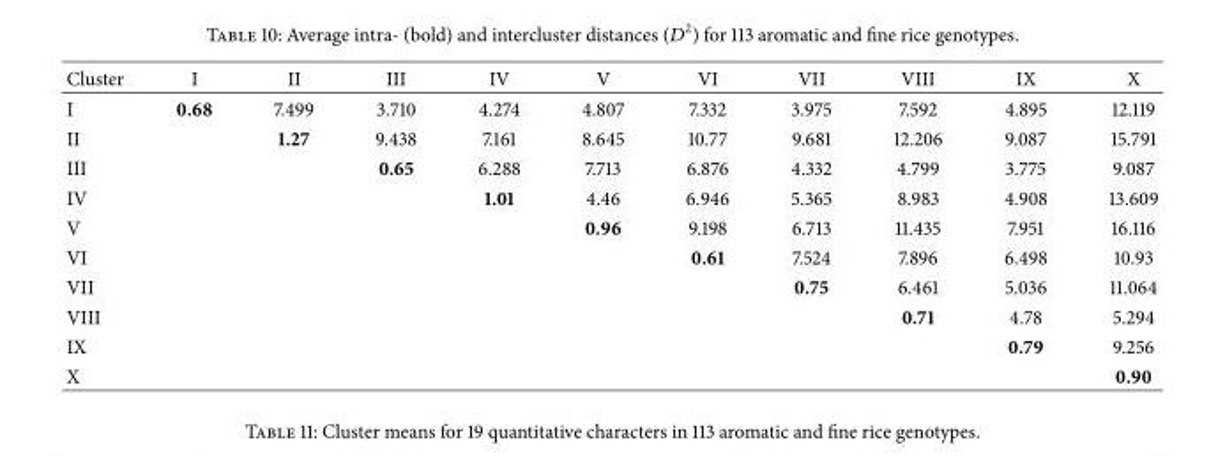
<table><thead><tr><td>Cluster</td><td>I</td><td>II</td><td>III</td><td>IV</td><td>V</td><td>VI</td><td>VII</td><td>VIII</td><td>IX</td><td>X</td></tr></thead><tbody><tr><td>I</td><td>0.68</td><td>7.499</td><td>3.710</td><td>4.274</td><td>4.807</td><td>7.332</td><td>3.975</td><td>7.592</td><td>4.895</td><td>12.119</td></tr><tr><td>II</td><td></td><td>1.27</td><td>9.438</td><td>7.161</td><td>8.645</td><td>10.77</td><td>9.681</td><td>12.206</td><td>9.087</td><td>15.791</td></tr><tr><td>III</td><td></td><td></td><td>0.65</td><td>6.288</td><td>7.713</td><td>6.876</td><td>4.332</td><td>4.799</td><td>3.775</td><td>9.087</td></tr><tr><td>IV</td><td></td><td></td><td></td><td>1.01</td><td>4.46</td><td>6.946</td><td>5.365</td><td>8.983</td><td>4.908</td><td>13.609</td></tr><tr><td>V</td><td></td><td></td><td></td><td></td><td>0.96</td><td>9.198</td><td>6.713</td><td>11.435</td><td>7.951</td><td>16.116</td></tr><tr><td>VI</td><td></td><td></td><td></td><td></td><td></td><td>0.61</td><td>7.524</td><td>7.896</td><td>6.498</td><td>10.93</td></tr><tr><td>VII</td><td></td><td></td><td></td><td></td><td></td><td></td><td>0.75</td><td>6.461</td><td>5.036</td><td>11.064</td></tr><tr><td>VIII</td><td></td><td></td><td></td><td></td><td></td><td></td><td></td><td>0.71</td><td>4.78</td><td>5.294</td></tr><tr><td>IX</td><td></td><td></td><td></td><td></td><td></td><td></td><td></td><td></td><td>0.79</td><td>9.256</td></tr><tr><td>X</td><td></td><td></td><td></td><td></td><td></td><td></td><td></td><td></td><td></td><td>0.90</td></tr></tbody></table>